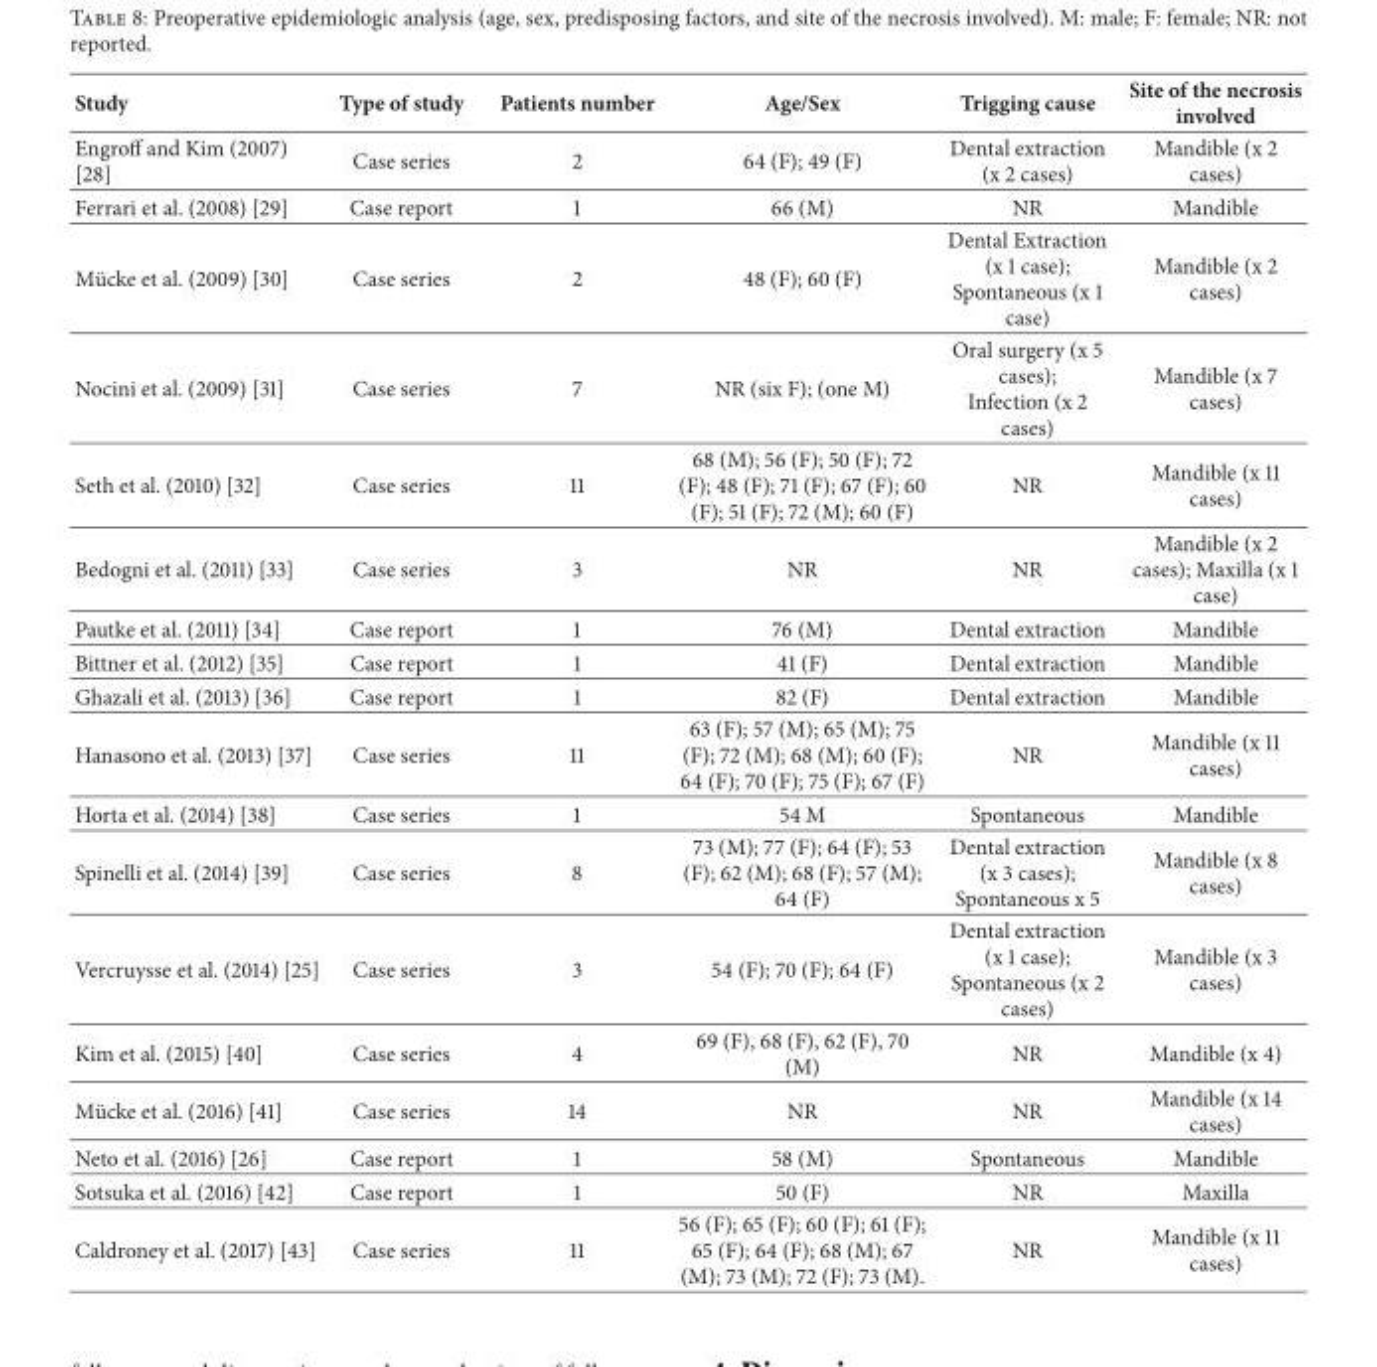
<table><thead><tr><td>Study</td><td>Type of study</td><td>Patients number</td><td>Age/Sex</td><td>Trigging cause</td><td>Site of the necrosis involved</td></tr></thead><tbody><tr><td>Engroff and Kim (2007) [28]</td><td>Case series</td><td>2</td><td>64 (F); 49 (F)</td><td>Dental extraction (x 2 cases)</td><td>Mandible (x 2 cases)</td></tr><tr><td>Ferrari et al. (2008) [29]</td><td>Case report</td><td>1</td><td>66 (M)</td><td>NR</td><td>Mandible</td></tr><tr><td>M¨ucke et al. (2009) [30]</td><td>Case series</td><td>2</td><td>48 (F); 60 (F)</td><td>Dental Extraction (x 1 case); Spontaneous (x 1 case)</td><td>Mandible (x 2 cases)</td></tr><tr><td>Nocini et al. (2009) [31]</td><td>Case series</td><td>7</td><td>NR (six F); (one M)</td><td>Oral surgery (x 5 cases); Infection (x 2 cases)</td><td>Mandible (x 7 cases)</td></tr><tr><td>Seth et al. (2010) [32]</td><td>Case series</td><td>11</td><td>68 (M); 56 (F); 50 (F); 72 (F); 48 (F); 71 (F); 67 (F); 60 (F); 51 (F); 72 (M); 60 (F)</td><td>NR</td><td>Mandible (x 11 cases)</td></tr><tr><td>Bedogni et al. (2011) [33]</td><td>Case series</td><td>3</td><td>NR</td><td>NR</td><td>Mandible (x 2 cases); Maxilla (x 1 case)</td></tr><tr><td>Pautke et al. (2011) [34]</td><td>Case report</td><td>1</td><td>76 (M)</td><td>Dental extraction</td><td>Mandible</td></tr><tr><td>Bittner et al. (2012) [35]</td><td>Case report</td><td>1</td><td>41 (F)</td><td>Dental extraction</td><td>Mandible</td></tr><tr><td>Ghazali et al. (2013) [36]</td><td>Case report</td><td>1</td><td>82 (F)</td><td>Dental extraction</td><td>Mandible</td></tr><tr><td>Hanasono et al. (2013) [37]</td><td>Case series</td><td>11</td><td>63 (F); 57 (M); 65 (M); 75 (F); 72 (M); 68 (M); 60 (F); 64 (F); 70 (F); 75 (F); 67 (F)</td><td>NR</td><td>Mandible (x 11 cases)</td></tr><tr><td>Horta et al. (2014) [38]</td><td>Case series</td><td>1</td><td>54 M</td><td>Spontaneous</td><td>Mandible</td></tr><tr><td>Spinelli et al. (2014) [39]</td><td>Case series</td><td>8</td><td>73 (M); 77 (F); 64 (F); 53 (F); 62 (M); 68 (F); 57 (M); 64 (F)</td><td>Dental extraction (x 3 cases); Spontaneous x 5</td><td>Mandible (x 8 cases)</td></tr><tr><td>Vercruysse et al. (2014) [25]</td><td>Case series</td><td>3</td><td>54 (F); 70 (F); 64 (F)</td><td>Dental extraction (x 1 case); Spontaneous (x 2 cases)</td><td>Mandible (x 3 cases)</td></tr><tr><td>Kim et al. (2015) [40]</td><td>Case series</td><td>4</td><td>69 (F), 68 (F), 62 (F), 70 (M)</td><td>NR</td><td>Mandible (x 4)</td></tr><tr><td>M¨ucke et al. (2016) [41]</td><td>Case series</td><td>14</td><td>NR</td><td>NR</td><td>Mandible (x 14 cases)</td></tr><tr><td>Neto et al. (2016) [26]</td><td>Case report</td><td>1</td><td>58 (M)</td><td>Spontaneous</td><td>Mandible</td></tr><tr><td>Sotsuka et al. (2016) [42]</td><td>Case report</td><td>1</td><td>50 (F)</td><td>NR</td><td>Maxilla</td></tr><tr><td>Caldroney et al. (2017) [43]</td><td>Case series</td><td>11</td><td>56 (F); 65 (F); 60 (F); 61 (F); 65 (F); 64 (F); 68 (M); 67 (M); 73 (M); 72 (F); 73 (M).</td><td>NR</td><td>Mandible (x 11 cases)</td></tr></tbody></table>